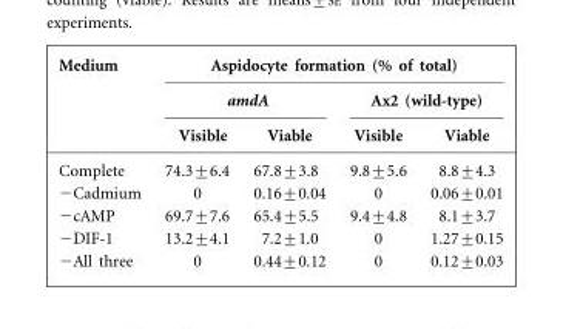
<table><thead><tr><td rowspan="3">Medium</td><td colspan="4">Aspidocyte formation (% of total)</td></tr><tr><td colspan="2">amdA</td><td colspan="2">Ax2 (wild-type)</td></tr><tr><td>Visible</td><td>Viable</td><td>Visible</td><td>Viable</td></tr></thead><tbody><tr><td>Complete</td><td>74.3±6.4</td><td>67.8±3.8</td><td>9.8±5.6</td><td>8.8±4.3</td></tr><tr><td>−Cadmium</td><td>0</td><td>0.16±0.04</td><td>0</td><td>0.06±0.01</td></tr><tr><td>−cAMP</td><td>69.7±7.6</td><td>65.4±5.5</td><td>9.4±4.8</td><td>8.1±3.7</td></tr><tr><td>−DIF-1</td><td>13.2±4.1</td><td>7.2±1.0</td><td>0</td><td>1.27±0.15</td></tr><tr><td>−All three</td><td>0</td><td>0.44±0.12</td><td>0</td><td>0.12±0.03</td></tr></tbody></table>